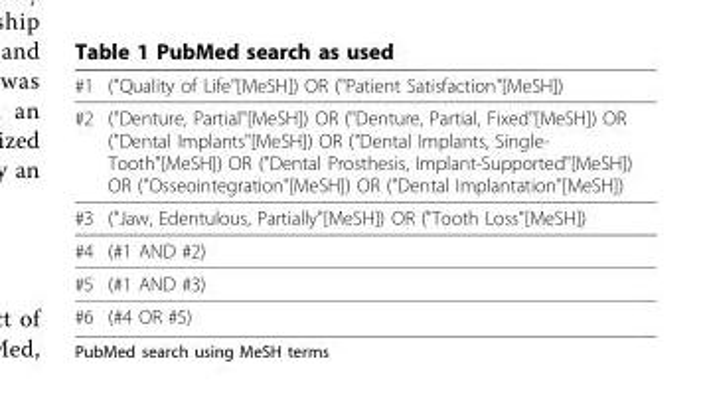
<table><thead><tr><td>#1</td><td>(&quot;Quality of Life&quot;[MeSH]) OR (&quot;Patient Satisfaction&quot;[MeSH])</td></tr></thead><tbody><tr><td>#2</td><td>(&quot;Denture, Partial&quot;[MeSH]) OR (&quot;Denture, Partial, Fixed&quot;[MeSH]) OR (&quot;Dental Implants&quot;[MeSH]) OR (&quot;Dental Implants, Single- Tooth&quot;[MeSH]) OR (&quot;Dental Prosthesis, Implant-Supported&quot;[MeSH]) OR (&quot;Osseointegration&quot;[MeSH]) OR (&quot;Dental Implantation&quot;[MeSH])</td></tr><tr><td>#3</td><td>(&quot;Jaw, Edentulous, Partially&quot;[MeSH]) OR (&quot;Tooth Loss&quot;[MeSH])</td></tr><tr><td>#4</td><td>(#1 AND #2)</td></tr><tr><td>#5</td><td>(#1 AND #3)</td></tr><tr><td>#6</td><td>(#4 OR #5)</td></tr></tbody></table>